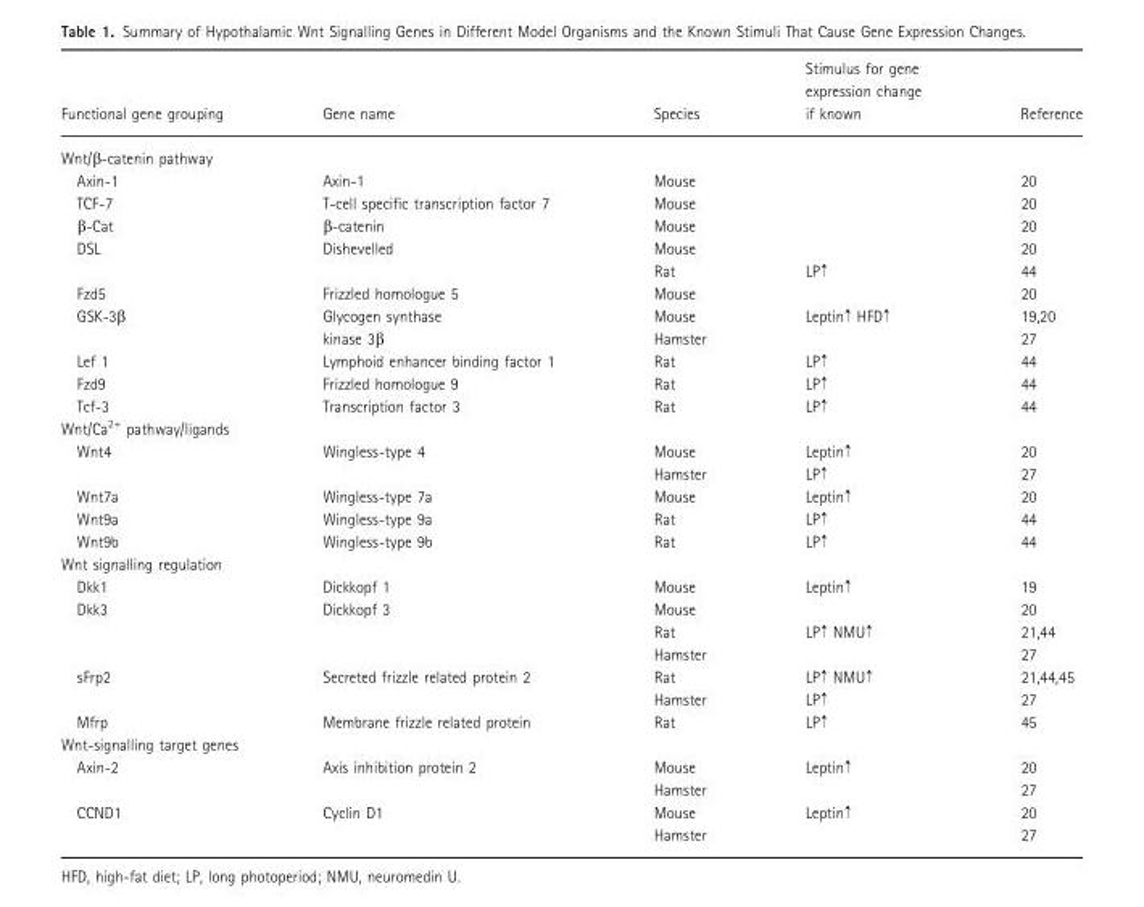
<table><thead><tr><td>Functional gene grouping</td><td>Gene name</td><td>Species</td><td>Stimulus for gene expression change if known</td><td>Reference</td></tr></thead><tbody><tr><td colspan="5">Wnt/β-catenin pathway</td></tr><tr><td>Axin-1</td><td>Axin-1</td><td>Mouse</td><td></td><td>20</td></tr><tr><td>TCF-7</td><td>T-cell specific transcription factor 7</td><td>Mouse</td><td></td><td>20</td></tr><tr><td>β-Cat</td><td>β-catenin</td><td>Mouse</td><td></td><td>20</td></tr><tr><td rowspan="2">DSL</td><td rowspan="2">Dishevelled</td><td>Mouse</td><td></td><td>20</td></tr><tr><td>Rat</td><td>LP↑</td><td>44</td></tr><tr><td>Fzd5</td><td>Frizzled homologue 5</td><td>Mouse</td><td></td><td>20</td></tr><tr><td rowspan="2">GSK-3β</td><td>Glycogen synthase</td><td>Mouse</td><td>Leptin↑ HFD↑</td><td>19,20</td></tr><tr><td>kinase 3β</td><td>Hamster</td><td></td><td>27</td></tr><tr><td>Lef 1</td><td>Lymphoid enhancer binding factor 1</td><td>Rat</td><td>LP↑</td><td>44</td></tr><tr><td>Fzd9</td><td>Frizzled homologue 9</td><td>Rat</td><td>LP↑</td><td>44</td></tr><tr><td>Tcf-3</td><td>Transcription factor 3</td><td>Rat</td><td>LP↑</td><td>44</td></tr><tr><td colspan="5">Wnt/Ca<sup>2+</sup> pathway/ligands</td></tr><tr><td rowspan="2">Wnt4</td><td rowspan="2">Wingless-type 4</td><td>Mouse</td><td>Leptin↑</td><td>20</td></tr><tr><td>Hamster</td><td>LP↑</td><td>27</td></tr><tr><td>Wnt7a</td><td>Wingless-type 7a</td><td>Mouse</td><td>Leptin↑</td><td>20</td></tr><tr><td>Wnt9a</td><td>Wingless-type 9a</td><td>Rat</td><td>LP↑</td><td>44</td></tr><tr><td>Wnt9b</td><td>Wingless-type 9b</td><td>Rat</td><td>LP↑</td><td>44</td></tr><tr><td colspan="5">Wnt signalling regulation</td></tr><tr><td>Dkk1</td><td>Dickkopf 1</td><td>Mouse</td><td>Leptin↑</td><td>19</td></tr><tr><td rowspan="3">Dkk3</td><td rowspan="3">Dickkopf 3</td><td>Mouse</td><td></td><td>20</td></tr><tr><td>Rat</td><td>LP↑ NMU↑</td><td>21,44</td></tr><tr><td>Hamster</td><td></td><td>27</td></tr><tr><td rowspan="2">sFrp2</td><td rowspan="2">Secreted frizzle related protein 2</td><td>Rat</td><td>LP↑ NMU↑</td><td>21,44,45</td></tr><tr><td>Hamster</td><td>LP↑</td><td>27</td></tr><tr><td>Mfrp</td><td>Membrane frizzle related protein</td><td>Rat</td><td>LP↑</td><td>45</td></tr><tr><td colspan="5">Wnt-signalling target genes</td></tr><tr><td rowspan="2">Axin-2</td><td rowspan="2">Axis inhibition protein 2</td><td>Mouse</td><td>Leptin↑</td><td>20</td></tr><tr><td>Hamster</td><td></td><td>27</td></tr><tr><td rowspan="2">CCND1</td><td rowspan="2">Cyclin D1</td><td>Mouse</td><td>Leptin↑</td><td>20</td></tr><tr><td>Hamster</td><td></td><td>27</td></tr></tbody></table>